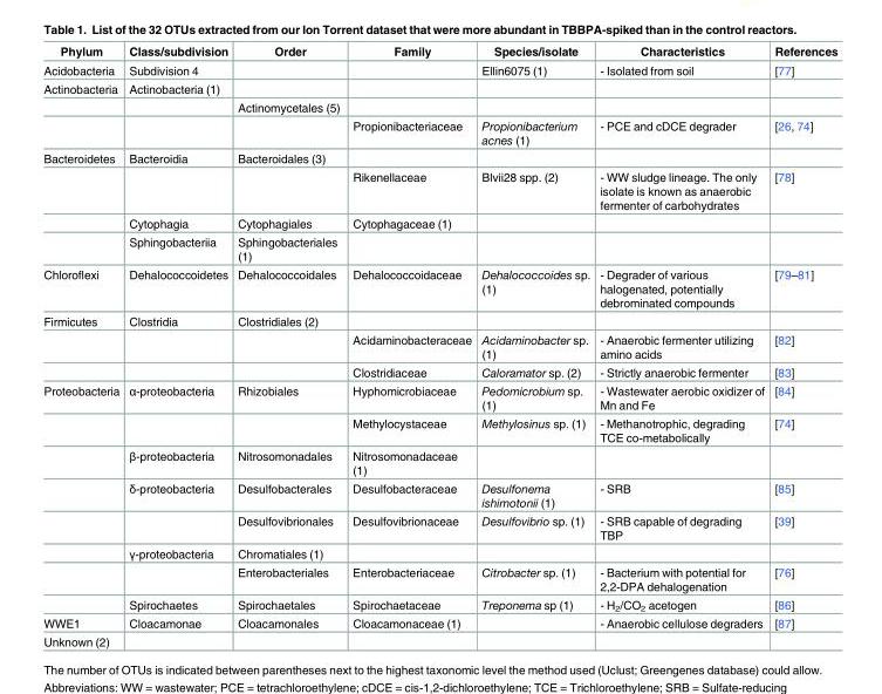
<table><thead><tr><td>Phylum</td><td>Class/subdivision</td><td>Order</td><td>Family</td><td>Species/isolate</td><td>Characteristics</td><td>References</td></tr></thead><tbody><tr><td>Acidobacteria</td><td>Subdivision 4</td><td></td><td></td><td>Ellin6075 (1)</td><td>- Isolated from soil</td><td>[77]</td></tr><tr><td rowspan="3">Actinobacteria</td><td>Actinobacteria (1)</td><td></td><td></td><td></td><td></td><td></td></tr><tr><td></td><td>Actinomycetales (5)</td><td></td><td></td><td></td><td></td></tr><tr><td></td><td></td><td>Propionibacteriaceae</td><td>Propionibacterium acnes (1)</td><td>- PCE and cDCE degrader</td><td>[26, 74]</td></tr><tr><td rowspan="4">Bacteroidetes</td><td>Bacteroidia</td><td>Bacteroidales (3)</td><td></td><td></td><td></td><td></td></tr><tr><td></td><td></td><td>Rikenellaceae</td><td>Blvii28 spp. (2)</td><td>- WW sludge lineage. The only isolate is known as anaerobic fermenter of carbohydrates</td><td>[78]</td></tr><tr><td>Cytophagia</td><td>Cytophagiales</td><td>Cytophagaceae (1)</td><td></td><td></td><td></td></tr><tr><td>Sphingobacteriia</td><td>Sphingobacteriales (1)</td><td></td><td></td><td></td><td></td></tr><tr><td>Chloroflexi</td><td>Dehalococcoidetes</td><td>Dehalococcoidales</td><td>Dehalococcoidaceae</td><td>Dehalococcoides sp. (1)</td><td>- Degrader of various halogenated, potentially debrominated compounds</td><td>[79–81]</td></tr><tr><td rowspan="3">Firmicutes</td><td>Clostridia</td><td>Clostridiales (2)</td><td></td><td></td><td></td><td></td></tr><tr><td></td><td></td><td>Acidaminobacteraceae</td><td>Acidaminobacter sp. (1)</td><td>- Anaerobic fermenter utilizing amino acids</td><td>[82]</td></tr><tr><td></td><td></td><td>Clostridiaceae</td><td>Caloramator sp. (2)</td><td>- Strictly anaerobic fermenter</td><td>[83]</td></tr><tr><td rowspan="8">Proteobacteria</td><td>α-proteobacteria</td><td>Rhizobiales</td><td>Hyphomicrobiaceae</td><td>Pedomicrobium sp. (1)</td><td>- Wastewater aerobic oxidizer of Mn and Fe</td><td>[84]</td></tr><tr><td></td><td></td><td>Methylocystaceae</td><td>Methylosinus sp. (1)</td><td>- Methanotrophic, degrading TCE co-metabolically</td><td>[74]</td></tr><tr><td>β-proteobacteria</td><td>Nitrosomonadales</td><td>Nitrosomonadaceae (1)</td><td></td><td></td><td></td></tr><tr><td>δ-proteobacteria</td><td>Desulfobacterales</td><td>Desulfobacteraceae</td><td>Desulfonema ishimotonii (1)</td><td>- SRB</td><td>[85]</td></tr><tr><td></td><td>Desulfovibrionales</td><td>Desulfovibrionaceae</td><td>Desulfovibrio sp. (1)</td><td>- SRB capable of degrading TBP</td><td>[39]</td></tr><tr><td>γ-proteobacteria</td><td>Chromatiales (1)</td><td></td><td></td><td></td><td></td></tr><tr><td></td><td>Enterobacteriales</td><td>Enterobacteriaceae</td><td>Citrobacter sp. (1)</td><td>- Bacterium with potential for 2,2-DPA dehalogenation</td><td>[76]</td></tr><tr><td>Spirochaetes</td><td>Spirochaetales</td><td>Spirochaetaceae</td><td>Treponema sp (1)</td><td>- H<sub>2</sub>/CO<sub>2</sub> acetogen</td><td>[86]</td></tr><tr><td>WWE1</td><td>Cloacamonae</td><td>Cloacamonales</td><td>Cloacamonaceae (1)</td><td></td><td>- Anaerobic cellulose degraders</td><td>[87]</td></tr><tr><td>Unknown (2)</td><td></td><td></td><td></td><td></td><td></td><td></td></tr></tbody></table>